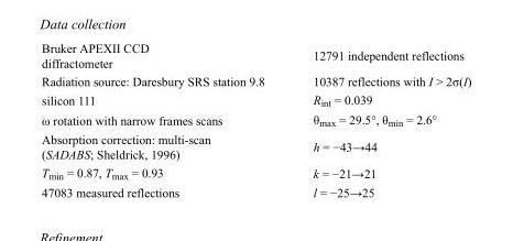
<table><tbody><tr><td>Bruker APEXII CCD diffractometer</td><td>12791 independent reflections</td></tr><tr><td>Radiation source: Daresbury SRS station 9.8</td><td>10387 reflections with I &gt; 2σ(I)</td></tr><tr><td>silicon 111</td><td>R<sub>int</sub> = 0.039</td></tr><tr><td>ω rotation with narrow frames scans</td><td>θ<sub>max</sub> = 29.5°, θ<sub>min</sub> = 2.6°</td></tr><tr><td>Absorption correction: multi-scan (SADABS; Sheldrick, 1996)</td><td>h = −43→44</td></tr><tr><td>T<sub>min</sub> = 0.87, T<sub>max</sub> = 0.93</td><td>k = −21→21</td></tr><tr><td>47083 measured reflections</td><td>l = −25→25</td></tr></tbody></table>